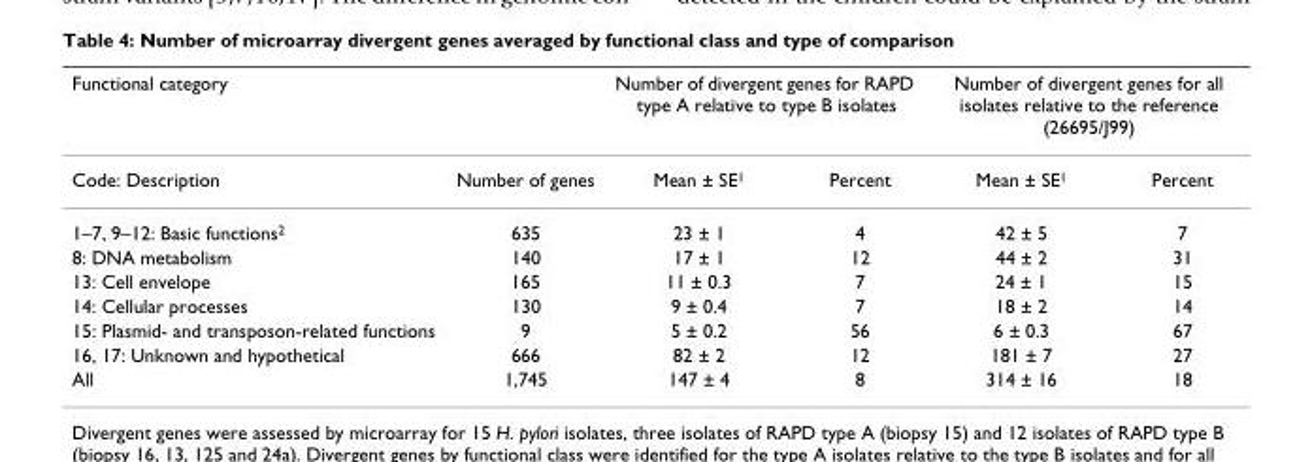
<table><thead><tr><td colspan="2">Functional category</td><td colspan="2">Number of divergent genes for RAPD type A relative to type B isolates</td><td colspan="2">Number of divergent genes for all isolates relative to the reference (26695/J99)</td></tr><tr><td>Code: Description</td><td>Number of genes</td><td>Mean ± SE<sup>1</sup></td><td>Percent</td><td>Mean ± SE<sup>1</sup></td><td>Percent</td></tr></thead><tbody><tr><td>1–7, 9–12: Basic functions<sup>2</sup></td><td>635</td><td>23 ± 1</td><td>4</td><td>42 ± 5</td><td>7</td></tr><tr><td>8: DNA metabolism</td><td>140</td><td>17 ± 1</td><td>12</td><td>44 ± 2</td><td>31</td></tr><tr><td>13: Cell envelope</td><td>165</td><td>11 ± 0.3</td><td>7</td><td>24 ± 1</td><td>15</td></tr><tr><td>14: Cellular processes</td><td>130</td><td>9 ± 0.4</td><td>7</td><td>18 ± 2</td><td>14</td></tr><tr><td>15: Plasmid- and transposon-related functions</td><td>9</td><td>5 ± 0.2</td><td>56</td><td>6 ± 0.3</td><td>67</td></tr><tr><td>16, 17: Unknown and hypothetical</td><td>666</td><td>82 ± 2</td><td>12</td><td>181 ± 7</td><td>27</td></tr><tr><td>All</td><td>1,745</td><td>147 ± 4</td><td>8</td><td>314 ± 16</td><td>18</td></tr></tbody></table>